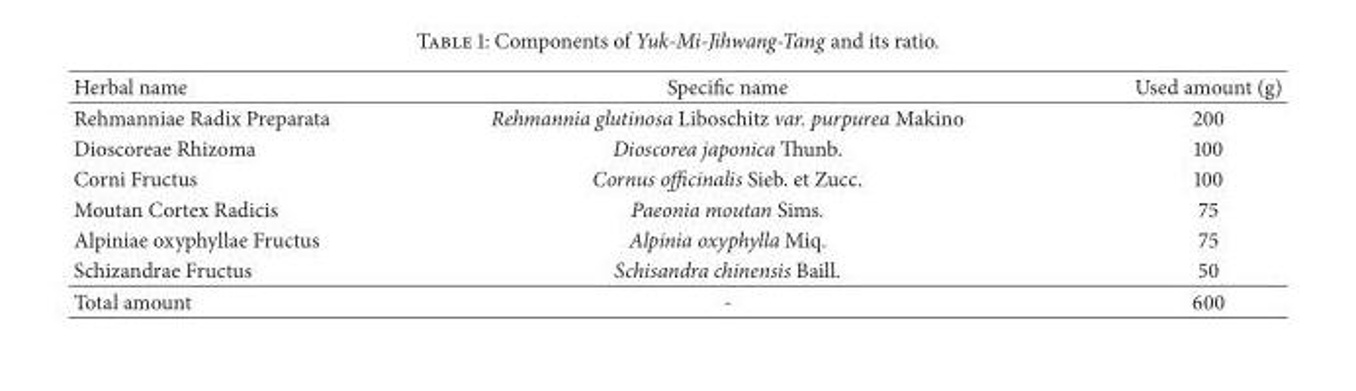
<table><thead><tr><td>Herbal name</td><td>Specific name</td><td>Used amount (g)</td></tr></thead><tbody><tr><td>Rehmanniae Radix Preparata</td><td>Rehmannia glutinosa Liboschitz var. purpurea Makino</td><td>200</td></tr><tr><td>Dioscoreae Rhizoma</td><td>Dioscorea japonica Thunb.</td><td>100</td></tr><tr><td>Corni Fructus</td><td>Cornus officinalis Sieb. et Zucc.</td><td>100</td></tr><tr><td>Moutan Cortex Radicis</td><td>Paeonia moutan Sims.</td><td>75</td></tr><tr><td>Alpiniae oxyphyllae Fructus</td><td>Alpinia oxyphylla Miq.</td><td>75</td></tr><tr><td>Schizandrae Fructus</td><td>Schisandra chinensis Baill.</td><td>50</td></tr><tr><td>Total amount</td><td>-</td><td>600</td></tr></tbody></table>